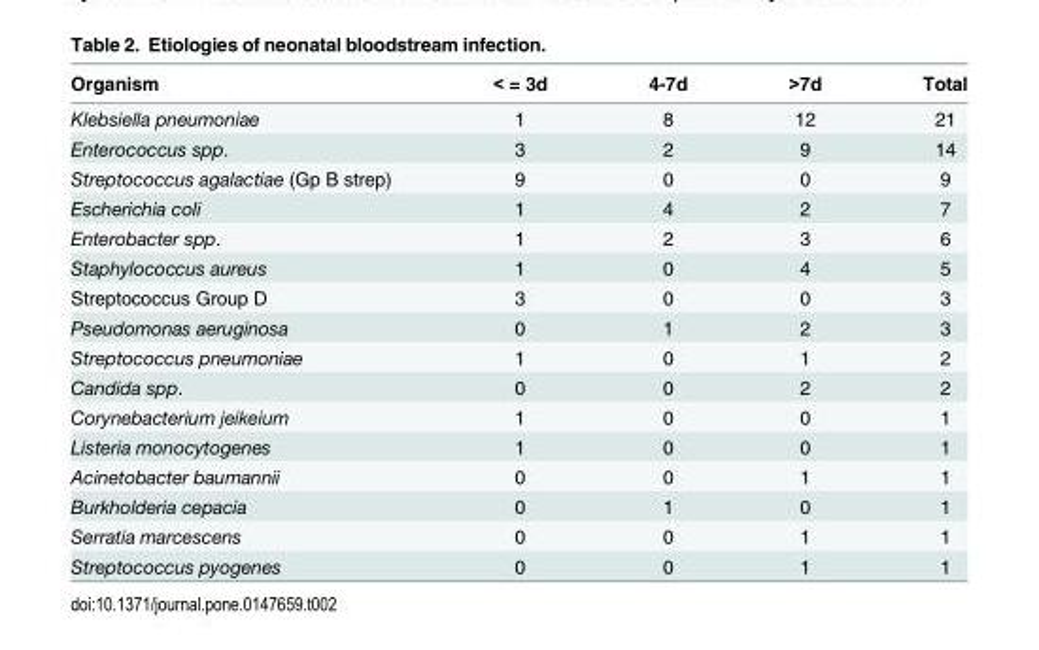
<table><thead><tr><td>Organism</td><td>&lt; = 3d</td><td>4-7d</td><td>&gt;7d</td><td>Total</td></tr></thead><tbody><tr><td>Klebsiella pneumoniae</td><td>1</td><td>8</td><td>12</td><td>21</td></tr><tr><td>Enterococcus spp.</td><td>3</td><td>2</td><td>9</td><td>14</td></tr><tr><td>Streptococcus agalactiae (Gp B strep)</td><td>9</td><td>0</td><td>0</td><td>9</td></tr><tr><td>Escherichia coli</td><td>1</td><td>4</td><td>2</td><td>7</td></tr><tr><td>Enterobacter spp.</td><td>1</td><td>2</td><td>3</td><td>6</td></tr><tr><td>Staphylococcus aureus</td><td>1</td><td>0</td><td>4</td><td>5</td></tr><tr><td>Streptococcus Group D</td><td>3</td><td>0</td><td>0</td><td>3</td></tr><tr><td>Pseudomonas aeruginosa</td><td>0</td><td>1</td><td>2</td><td>3</td></tr><tr><td>Streptococcus pneumoniae</td><td>1</td><td>0</td><td>1</td><td>2</td></tr><tr><td>Candida spp.</td><td>0</td><td>0</td><td>2</td><td>2</td></tr><tr><td>Corynebacterium jeikeium</td><td>1</td><td>0</td><td>0</td><td>1</td></tr><tr><td>Listeria monocytogenes</td><td>1</td><td>0</td><td>0</td><td>1</td></tr><tr><td>Acinetobacter baumannii</td><td>0</td><td>0</td><td>1</td><td>1</td></tr><tr><td>Burkholderia cepacia</td><td>0</td><td>1</td><td>0</td><td>1</td></tr><tr><td>Serratia marcescens</td><td>0</td><td>0</td><td>1</td><td>1</td></tr><tr><td>Streptococcus pyogenes</td><td>0</td><td>0</td><td>1</td><td>1</td></tr></tbody></table>